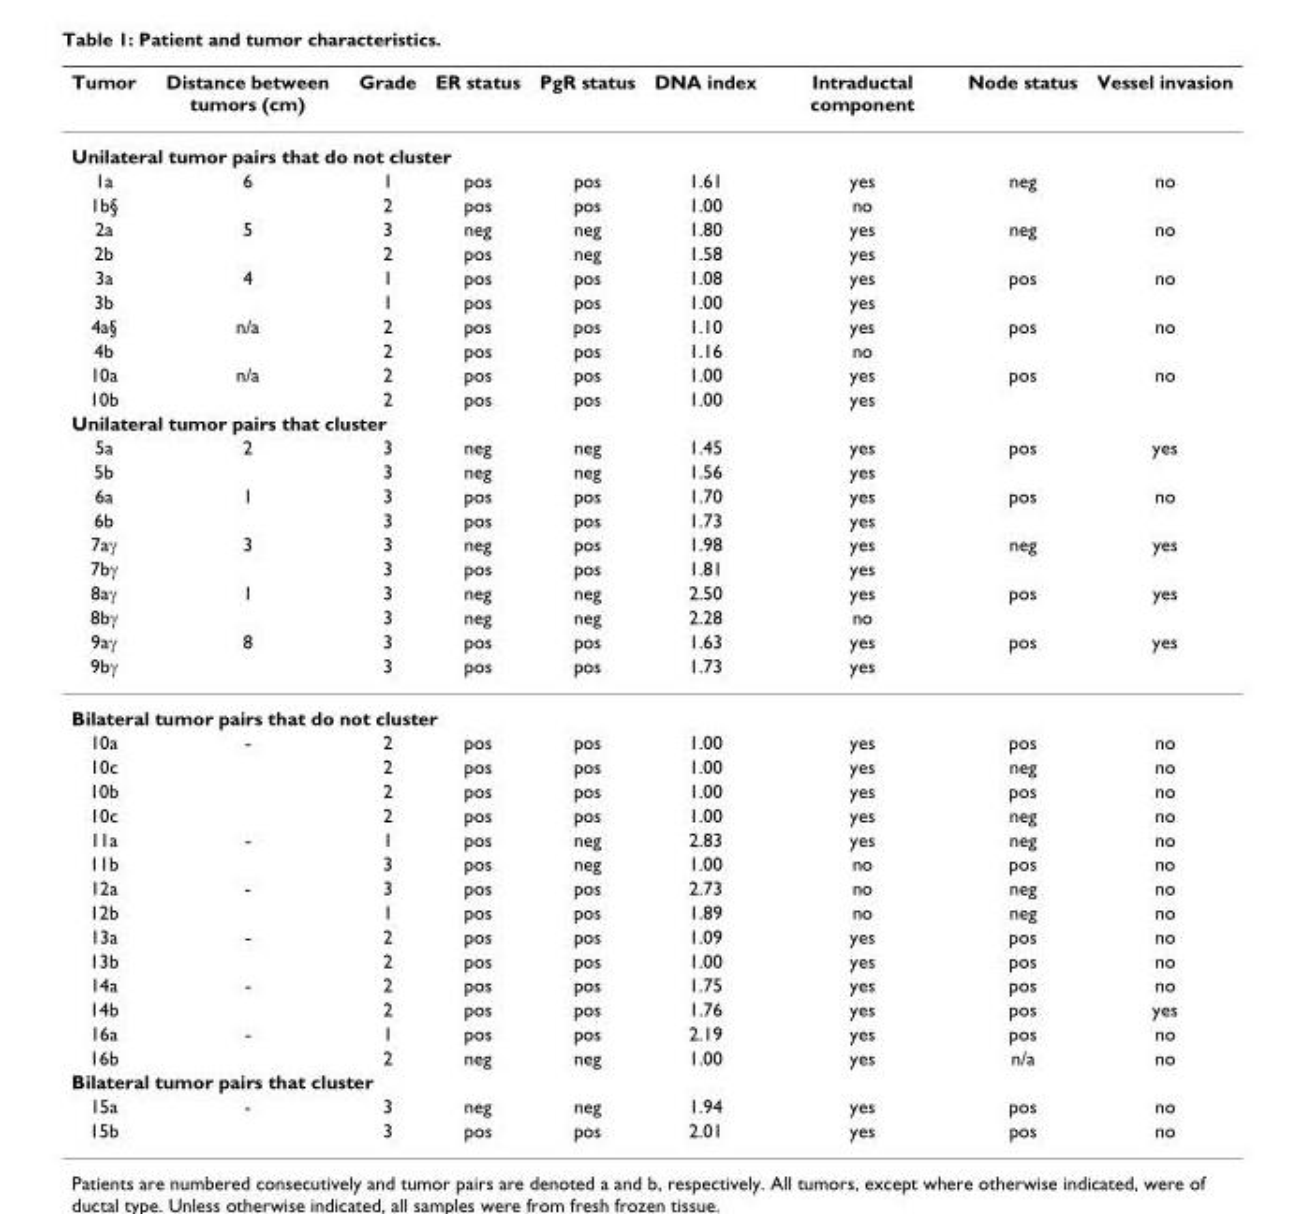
<table><thead><tr><td>Tumor</td><td>Distance between tumors (cm)</td><td>Grade</td><td>ER status</td><td>PgR status</td><td>DNA index</td><td>Intraductal component</td><td>Node status</td><td>Vessel invasion</td></tr></thead><tbody><tr><td colspan="9">Unilateral tumor pairs that do not cluster</td></tr><tr><td>1a</td><td>6</td><td>1</td><td>pos</td><td>pos</td><td>1.61</td><td>yes</td><td>neg</td><td>no</td></tr><tr><td>1b§</td><td></td><td>2</td><td>pos</td><td>pos</td><td>1.00</td><td>no</td><td></td><td></td></tr><tr><td>2a</td><td>5</td><td>3</td><td>neg</td><td>neg</td><td>1.80</td><td>yes</td><td>neg</td><td>no</td></tr><tr><td>2b</td><td></td><td>2</td><td>pos</td><td>neg</td><td>1.58</td><td>yes</td><td></td><td></td></tr><tr><td>3a</td><td>4</td><td>1</td><td>pos</td><td>pos</td><td>1.08</td><td>yes</td><td>pos</td><td>no</td></tr><tr><td>3b</td><td></td><td>1</td><td>pos</td><td>pos</td><td>1.00</td><td>yes</td><td></td><td></td></tr><tr><td>4a§</td><td>n/a</td><td>2</td><td>pos</td><td>pos</td><td>1.10</td><td>yes</td><td>pos</td><td>no</td></tr><tr><td>4b</td><td></td><td>2</td><td>pos</td><td>pos</td><td>1.16</td><td>no</td><td></td><td></td></tr><tr><td>10a</td><td>n/a</td><td>2</td><td>pos</td><td>pos</td><td>1.00</td><td>yes</td><td>pos</td><td>no</td></tr><tr><td>10b</td><td></td><td>2</td><td>pos</td><td>pos</td><td>1.00</td><td>yes</td><td></td><td></td></tr><tr><td colspan="9">Unilateral tumor pairs that cluster</td></tr><tr><td>5a</td><td>2</td><td>3</td><td>neg</td><td>neg</td><td>1.45</td><td>yes</td><td>pos</td><td>yes</td></tr><tr><td>5b</td><td></td><td>3</td><td>neg</td><td>neg</td><td>1.56</td><td>yes</td><td></td><td></td></tr><tr><td>6a</td><td>1</td><td>3</td><td>pos</td><td>pos</td><td>1.70</td><td>yes</td><td>pos</td><td>no</td></tr><tr><td>6b</td><td></td><td>3</td><td>pos</td><td>pos</td><td>1.73</td><td>yes</td><td></td><td></td></tr><tr><td>7aγ</td><td>3</td><td>3</td><td>neg</td><td>pos</td><td>1.98</td><td>yes</td><td>neg</td><td>yes</td></tr><tr><td>7bγ</td><td></td><td>3</td><td>pos</td><td>pos</td><td>1.81</td><td>yes</td><td></td><td></td></tr><tr><td>8aγ</td><td>1</td><td>3</td><td>neg</td><td>neg</td><td>2.50</td><td>yes</td><td>pos</td><td>yes</td></tr><tr><td>8bγ</td><td></td><td>3</td><td>neg</td><td>neg</td><td>2.28</td><td>no</td><td></td><td></td></tr><tr><td>9aγ</td><td>8</td><td>3</td><td>pos</td><td>pos</td><td>1.63</td><td>yes</td><td>pos</td><td>yes</td></tr><tr><td>9bγ</td><td></td><td>3</td><td>pos</td><td>pos</td><td>1.73</td><td>yes</td><td></td><td></td></tr><tr><td colspan="9">Bilateral tumor pairs that do not cluster</td></tr><tr><td>10a</td><td>-</td><td>2</td><td>pos</td><td>pos</td><td>1.00</td><td>yes</td><td>pos</td><td>no</td></tr><tr><td>10c</td><td></td><td>2</td><td>pos</td><td>pos</td><td>1.00</td><td>yes</td><td>neg</td><td>no</td></tr><tr><td>10b</td><td></td><td>2</td><td>pos</td><td>pos</td><td>1.00</td><td>yes</td><td>pos</td><td>no</td></tr><tr><td>10c</td><td></td><td>2</td><td>pos</td><td>pos</td><td>1.00</td><td>yes</td><td>neg</td><td>no</td></tr><tr><td>11a</td><td>-</td><td>1</td><td>pos</td><td>neg</td><td>2.83</td><td>yes</td><td>neg</td><td>no</td></tr><tr><td>11b</td><td></td><td>3</td><td>pos</td><td>neg</td><td>1.00</td><td>no</td><td>pos</td><td>no</td></tr><tr><td>12a</td><td>-</td><td>3</td><td>pos</td><td>pos</td><td>2.73</td><td>no</td><td>neg</td><td>no</td></tr><tr><td>12b</td><td></td><td>1</td><td>pos</td><td>pos</td><td>1.89</td><td>no</td><td>neg</td><td>no</td></tr><tr><td>13a</td><td>-</td><td>2</td><td>pos</td><td>pos</td><td>1.09</td><td>yes</td><td>pos</td><td>no</td></tr><tr><td>13b</td><td></td><td>2</td><td>pos</td><td>pos</td><td>1.00</td><td>yes</td><td>pos</td><td>no</td></tr><tr><td>14a</td><td>-</td><td>2</td><td>pos</td><td>pos</td><td>1.75</td><td>yes</td><td>pos</td><td>no</td></tr><tr><td>14b</td><td></td><td>2</td><td>pos</td><td>pos</td><td>1.76</td><td>yes</td><td>pos</td><td>yes</td></tr><tr><td>16a</td><td>-</td><td>1</td><td>pos</td><td>pos</td><td>2.19</td><td>yes</td><td>pos</td><td>no</td></tr><tr><td>16b</td><td></td><td>2</td><td>neg</td><td>neg</td><td>1.00</td><td>yes</td><td>n/a</td><td>no</td></tr><tr><td colspan="9">Bilateral tumor pairs that cluster</td></tr><tr><td>15a</td><td>-</td><td>3</td><td>neg</td><td>neg</td><td>1.94</td><td>yes</td><td>pos</td><td>no</td></tr><tr><td>15b</td><td></td><td>3</td><td>pos</td><td>pos</td><td>2.01</td><td>yes</td><td>pos</td><td>no</td></tr></tbody></table>